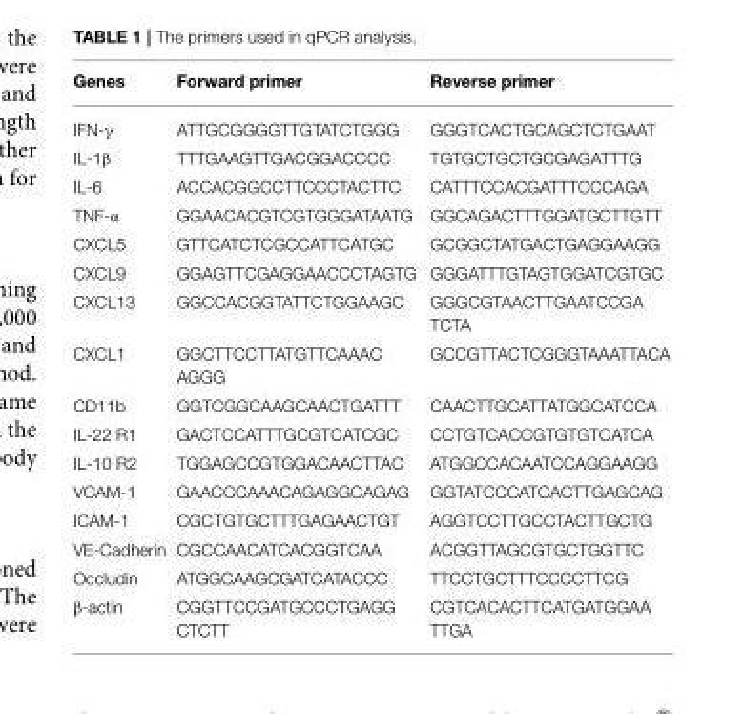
<table><thead><tr><td>Genes</td><td>Forward primer</td><td>Reverse primer</td></tr></thead><tbody><tr><td>IFN-γ</td><td>ATTGCGGGGTTGTATCTGGG</td><td>GGGTCACTGCAGCTCTGAAT</td></tr><tr><td>IL-1β</td><td>TTTGAAGTTGACGGACCCC</td><td>TGTGCTGCTGCGAGATTTG</td></tr><tr><td>IL-6</td><td>ACCACGGCCTTCCCTACTTC</td><td>CATTTCCACGATTTCCCAGA</td></tr><tr><td>TNF-α</td><td>GGAACACGTCGTGGGATAATG</td><td>GGCAGACTTTGGATGCTTGTT</td></tr><tr><td>CXCL5</td><td>GTTCATCTCGCCATTCATGC</td><td>GCGGCTATGACTGAGGAAGG</td></tr><tr><td>CXCL9</td><td>GGAGTTCGAGGAACCCTAGTG</td><td>GGGATTTGTAGTGGATCGTGC</td></tr><tr><td>CXCL13</td><td>GGCCACGGTATTCTGGAAGC</td><td>GGGCGTAACTTGAATCCGA TCTA</td></tr><tr><td>CXCL1</td><td>GGCTTCCTTATGTTCAAAC AGGG</td><td>GCCGTTACTCGGGTAAATTACA</td></tr><tr><td>CD11b</td><td>GGTCGGCAAGCAACTGATTT</td><td>CAACTTGCATTATGGCATCCA</td></tr><tr><td>IL-22 R1</td><td>GACTCCATTTGCGTCATCGC</td><td>CCTGTCACCGTGTGTCATCA</td></tr><tr><td>IL-10 R2</td><td>TGGAGCCGTGGACAACTTAC</td><td>ATGGCCACAATCCAGGAAGG</td></tr><tr><td>VCAM-1</td><td>GAACCCAAACAGAGGCAGAG</td><td>GGTATCCCATCACTTGAGCAG</td></tr><tr><td>ICAM-1</td><td>CGCTGTGCTTTGAGAACTGT</td><td>AGGTCCTTGCCTACTTGCTG</td></tr><tr><td>VE-Cadherin</td><td>CGCCAACATCACGGTCAA</td><td>ACGGTTAGCGTGCTGGTTC</td></tr><tr><td>Occludin</td><td>ATGGCAAGCGATCATACCC</td><td>TTCCTGCTTTCCCCTTCG</td></tr><tr><td>β-actin</td><td>CGGTTCCGATGCCCTGAGG CTCTT</td><td>CGTCACACTTCATGATGGAA TTGA</td></tr></tbody></table>